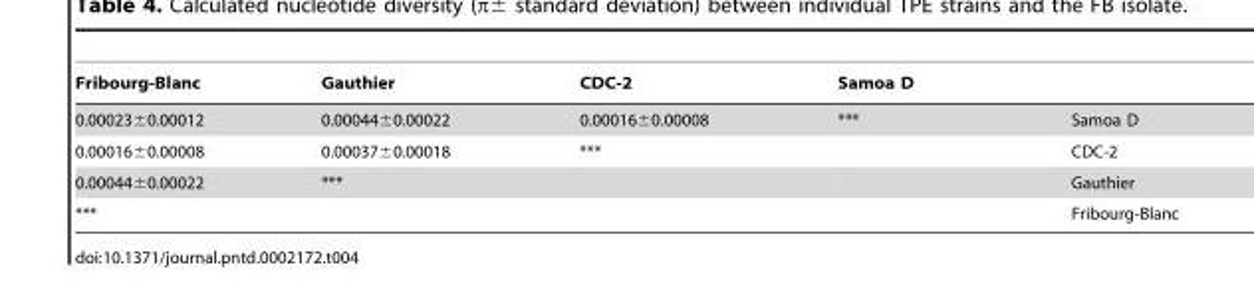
<table><thead><tr><td>Fribourg-Blanc</td><td>Gauthier</td><td>CDC-2</td><td>Samoa D</td><td></td></tr></thead><tbody><tr><td>0.00023±0.00012</td><td>0.00044±0.00022</td><td>0.00016±0.00008</td><td>***</td><td>Samoa D</td></tr><tr><td>0.00016±0.00008</td><td>0.00037±0.00018</td><td>***</td><td></td><td>CDC-2</td></tr><tr><td>0.00044±0.00022</td><td>***</td><td></td><td></td><td>Gauthier</td></tr><tr><td>***</td><td></td><td></td><td></td><td>Fribourg-Blanc</td></tr></tbody></table>